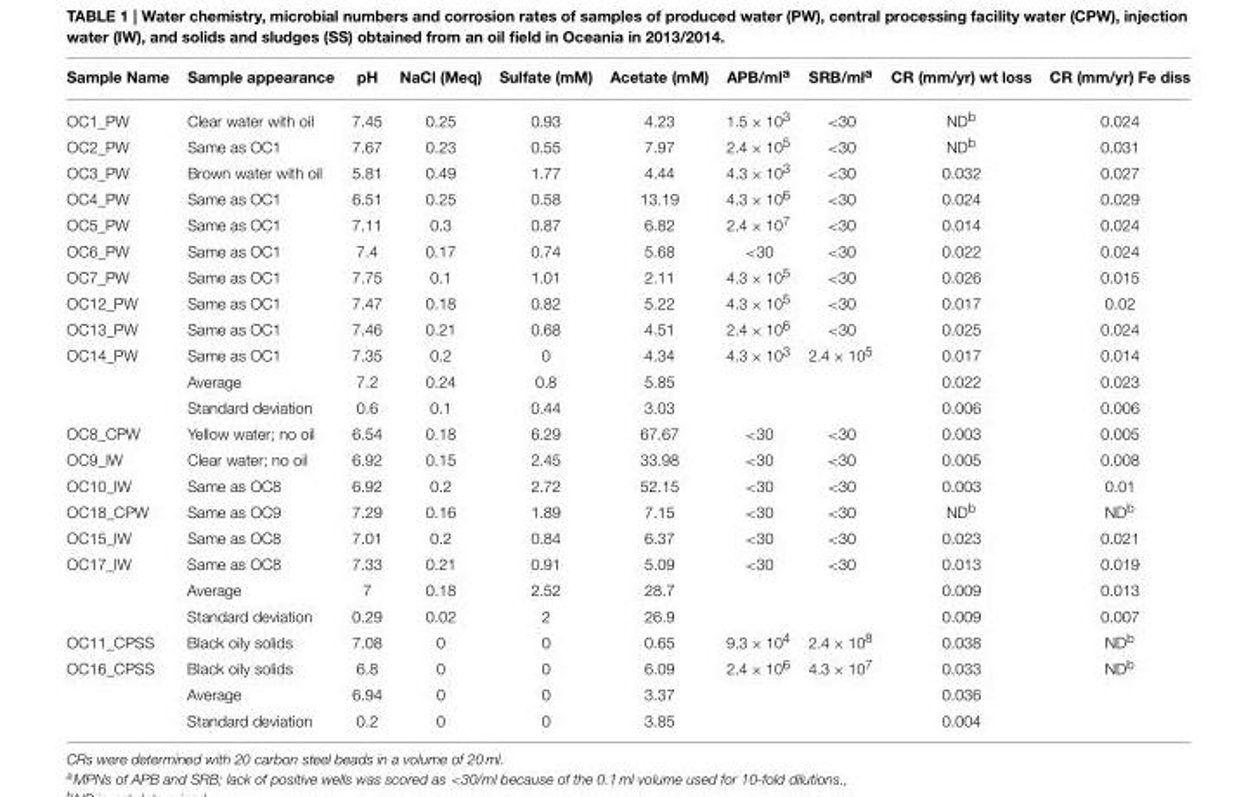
<table><thead><tr><td>Sample Name</td><td>Sample appearance</td><td>pH</td><td>NaCl (Meq)</td><td>Sulfate (mM)</td><td>Acetate (mM)</td><td>APB/ml<sup>a</sup></td><td>SRB/ml<sup>a</sup></td><td>CR (mm/yr) wt loss</td><td>CR (mm/yr) Fe diss</td></tr></thead><tbody><tr><td>OC1_PW</td><td>Clear water with oil</td><td>7.45</td><td>0.25</td><td>0.93</td><td>4.23</td><td>1.5 × 10<sup>3</sup></td><td>&lt;30</td><td>ND<sup>b</sup></td><td>0.024</td></tr><tr><td>OC2_PW</td><td>Same as OC1</td><td>7.67</td><td>0.23</td><td>0.55</td><td>7.97</td><td>2.4 × 10<sup>5</sup></td><td>&lt;30</td><td>ND<sup>b</sup></td><td>0.031</td></tr><tr><td>OC3_PW</td><td>Brown water with oil</td><td>5.81</td><td>0.49</td><td>1.77</td><td>4.44</td><td>4.3 × 10<sup>3</sup></td><td>&lt;30</td><td>0.032</td><td>0.027</td></tr><tr><td>OC4_PW</td><td>Same as OC1</td><td>6.51</td><td>0.25</td><td>0.58</td><td>13.19</td><td>4.3 × 10<sup>6</sup></td><td>&lt;30</td><td>0.024</td><td>0.029</td></tr><tr><td>OC5_PW</td><td>Same as OC1</td><td>7.11</td><td>0.3</td><td>0.87</td><td>6.82</td><td>2.4 × 10<sup>7</sup></td><td>&lt;30</td><td>0.014</td><td>0.024</td></tr><tr><td>OC6_PW</td><td>Same as OC1</td><td>7.4</td><td>0.17</td><td>0.74</td><td>5.68</td><td>&lt;30</td><td>&lt;30</td><td>0.022</td><td>0.024</td></tr><tr><td>OC7_PW</td><td>Same as OC1</td><td>7.75</td><td>0.1</td><td>1.01</td><td>2.11</td><td>4.3 × 10<sup>5</sup></td><td>&lt;30</td><td>0.026</td><td>0.015</td></tr><tr><td>OC12_PW</td><td>Same as OC1</td><td>7.47</td><td>0.18</td><td>0.82</td><td>5.22</td><td>4.3 × 10<sup>5</sup></td><td>&lt;30</td><td>0.017</td><td>0.02</td></tr><tr><td>OC13_PW</td><td>Same as OC1</td><td>7.46</td><td>0.21</td><td>0.68</td><td>4.51</td><td>2.4 × 10<sup>6</sup></td><td>&lt;30</td><td>0.025</td><td>0.024</td></tr><tr><td rowspan="3">OC14_PW</td><td>Same as OC1</td><td>7.35</td><td>0.2</td><td>0</td><td>4.34</td><td>4.3 × 10<sup>3</sup></td><td>2.4 × 10<sup>5</sup></td><td>0.017</td><td>0.014</td></tr><tr><td>Average</td><td>7.2</td><td>0.24</td><td>0.8</td><td>5.85</td><td></td><td></td><td>0.022</td><td>0.023</td></tr><tr><td>Standard deviation</td><td>0.6</td><td>0.1</td><td>0.44</td><td>3.03</td><td></td><td></td><td>0.006</td><td>0.006</td></tr><tr><td>OC8_CPW</td><td>Yellow water; no oil</td><td>6.54</td><td>0.18</td><td>6.29</td><td>67.67</td><td>&lt;30</td><td>&lt;30</td><td>0.003</td><td>0.005</td></tr><tr><td>OC9_IW</td><td>Clear water; no oil</td><td>6.92</td><td>0.15</td><td>2.45</td><td>33.98</td><td>&lt;30</td><td>&lt;30</td><td>0.005</td><td>0.008</td></tr><tr><td>OC10_IW</td><td>Same as OC8</td><td>6.92</td><td>0.2</td><td>2.72</td><td>52.15</td><td>&lt;30</td><td>&lt;30</td><td>0.003</td><td>0.01</td></tr><tr><td>OC18_CPW</td><td>Same as OC9</td><td>7.29</td><td>0.16</td><td>1.89</td><td>7.15</td><td>&lt;30</td><td>&lt;30</td><td>ND<sup>b</sup></td><td>ND<sup>b</sup></td></tr><tr><td>OC15_IW</td><td>Same as OC8</td><td>7.01</td><td>0.2</td><td>0.84</td><td>6.37</td><td>&lt;30</td><td>&lt;30</td><td>0.023</td><td>0.021</td></tr><tr><td rowspan="3">OC17_IW</td><td>Same as OC8</td><td>7.33</td><td>0.21</td><td>0.91</td><td>5.09</td><td>&lt;30</td><td>&lt;30</td><td>0.013</td><td>0.019</td></tr><tr><td>Average</td><td>7</td><td>0.18</td><td>2.52</td><td>28.7</td><td></td><td></td><td>0.009</td><td>0.013</td></tr><tr><td>Standard deviation</td><td>0.29</td><td>0.02</td><td>2</td><td>26.9</td><td></td><td></td><td>0.009</td><td>0.007</td></tr><tr><td>OC11_CPSS</td><td>Black oily solids</td><td>7.08</td><td>0</td><td>0</td><td>0.65</td><td>9.3 × 10<sup>4</sup></td><td>2.4 × 10<sup>8</sup></td><td>0.038</td><td>ND<sup>b</sup></td></tr><tr><td rowspan="3">OC16_CPSS</td><td>Black oily solids</td><td>6.8</td><td>0</td><td>0</td><td>6.09</td><td>2.4 × 10<sup>6</sup></td><td>4.3 × 10<sup>7</sup></td><td>0.033</td><td>ND<sup>b</sup></td></tr><tr><td>Average</td><td>6.94</td><td>0</td><td>0</td><td>3.37</td><td></td><td></td><td>0.036</td><td></td></tr><tr><td>Standard deviation</td><td>0.2</td><td>0</td><td>0</td><td>3.85</td><td></td><td></td><td>0.004</td><td></td></tr></tbody></table>